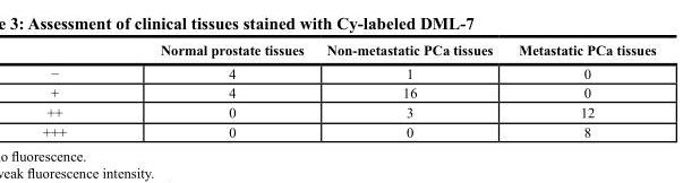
<table><thead><tr><td></td><td>Normal prostate tissues</td><td>Non-metastatic PCa tissues</td><td>Metastatic PCa tissues</td></tr></thead><tbody><tr><td>−</td><td>4</td><td>1</td><td>0</td></tr><tr><td>+</td><td>4</td><td>16</td><td>0</td></tr><tr><td>++</td><td>0</td><td>3</td><td>12</td></tr><tr><td>+++</td><td>0</td><td>0</td><td>8</td></tr></tbody></table>